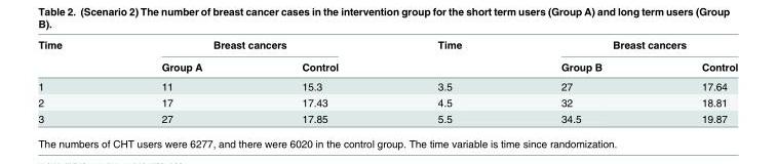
<table><thead><tr><td rowspan="2">Time</td><td colspan="2">Breast cancers</td><td rowspan="2">Time</td><td colspan="2">Breast cancers</td></tr><tr><td>Group A</td><td>Control</td><td>Group B</td><td>Control</td></tr></thead><tbody><tr><td>1</td><td>11</td><td>15.3</td><td>3.5</td><td>27</td><td>17.64</td></tr><tr><td>2</td><td>17</td><td>17.43</td><td>4.5</td><td>32</td><td>18.81</td></tr><tr><td>3</td><td>27</td><td>17.85</td><td>5.5</td><td>34.5</td><td>19.87</td></tr></tbody></table>